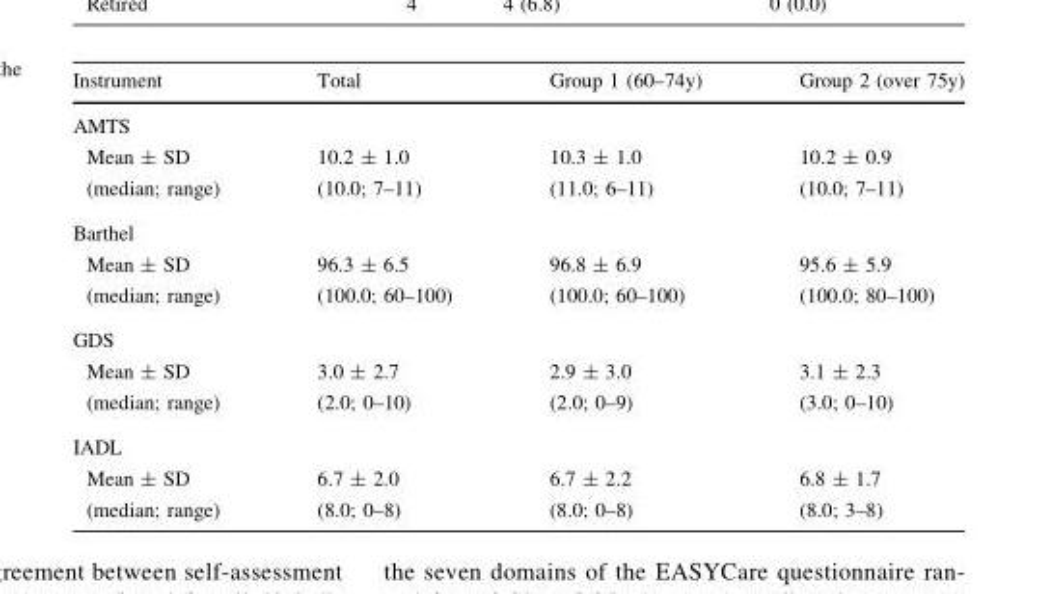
<table><thead><tr><td>Instrument</td><td>Total</td><td>Group 1 (60–74y)</td><td>Group 2 (over 75y)</td></tr></thead><tbody><tr><td colspan="4">AMTS</td></tr><tr><td>Mean ± SD</td><td>10.2 ± 1.0</td><td>10.3 ± 1.0</td><td>10.2 ± 0.9</td></tr><tr><td>(median; range)</td><td>(10.0; 7–11)</td><td>(11.0; 6–11)</td><td>(10.0; 7–11)</td></tr><tr><td colspan="4">Barthel</td></tr><tr><td>Mean ± SD</td><td>96.3 ± 6.5</td><td>96.8 ± 6.9</td><td>95.6 ± 5.9</td></tr><tr><td>(median; range)</td><td>(100.0; 60–100)</td><td>(100.0; 60–100)</td><td>(100.0; 80–100)</td></tr><tr><td colspan="4">GDS</td></tr><tr><td>Mean ± SD</td><td>3.0 ± 2.7</td><td>2.9 ± 3.0</td><td>3.1 ± 2.3</td></tr><tr><td>(median; range)</td><td>(2.0; 0–10)</td><td>(2.0; 0–9)</td><td>(3.0; 0–10)</td></tr><tr><td colspan="4">IADL</td></tr><tr><td>Mean ± SD</td><td>6.7 ± 2.0</td><td>6.7 ± 2.2</td><td>6.8 ± 1.7</td></tr><tr><td>(median; range)</td><td>(8.0; 0–8)</td><td>(8.0; 0–8)</td><td>(8.0; 3–8)</td></tr></tbody></table>